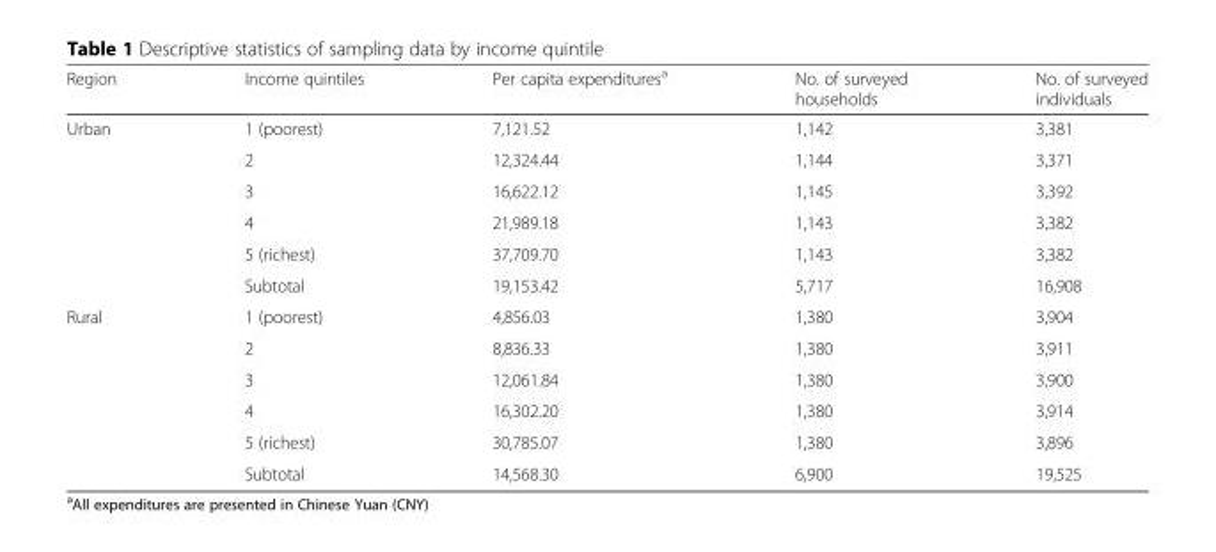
<table><thead><tr><td>Region</td><td>Income quintiles</td><td>Per capita expenditures<sup>a</sup></td><td>No. of surveyed households</td><td>No. of surveyed individuals</td></tr></thead><tbody><tr><td rowspan="6">Urban</td><td>1 (poorest)</td><td>7,121.52</td><td>1,142</td><td>3,381</td></tr><tr><td>2</td><td>12,324.44</td><td>1,144</td><td>3,371</td></tr><tr><td>3</td><td>16,622.12</td><td>1,145</td><td>3,392</td></tr><tr><td>4</td><td>21,989.18</td><td>1,143</td><td>3,382</td></tr><tr><td>5 (richest)</td><td>37,709.70</td><td>1,143</td><td>3,382</td></tr><tr><td>Subtotal</td><td>19,153.42</td><td>5,717</td><td>16,908</td></tr><tr><td rowspan="6">Rural</td><td>1 (poorest)</td><td>4,856.03</td><td>1,380</td><td>3,904</td></tr><tr><td>2</td><td>8,836.33</td><td>1,380</td><td>3,911</td></tr><tr><td>3</td><td>12,061.84</td><td>1,380</td><td>3,900</td></tr><tr><td>4</td><td>16,302.20</td><td>1,380</td><td>3,914</td></tr><tr><td>5 (richest)</td><td>30,785.07</td><td>1,380</td><td>3,896</td></tr><tr><td>Subtotal</td><td>14,568.30</td><td>6,900</td><td>19,525</td></tr></tbody></table>